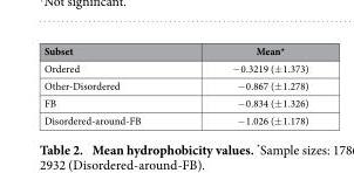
<table><thead><tr><td>Subset</td><td>Mean*</td></tr></thead><tbody><tr><td>Ordered</td><td>− 0.3219 (± 1.373)</td></tr><tr><td>Other-Disordered</td><td>− 0.867 (± 1.278)</td></tr><tr><td>FB</td><td>− 0.834 (± 1.326)</td></tr><tr><td>Disordered-around-FB</td><td>− 1.026 (± 1.178)</td></tr></tbody></table>